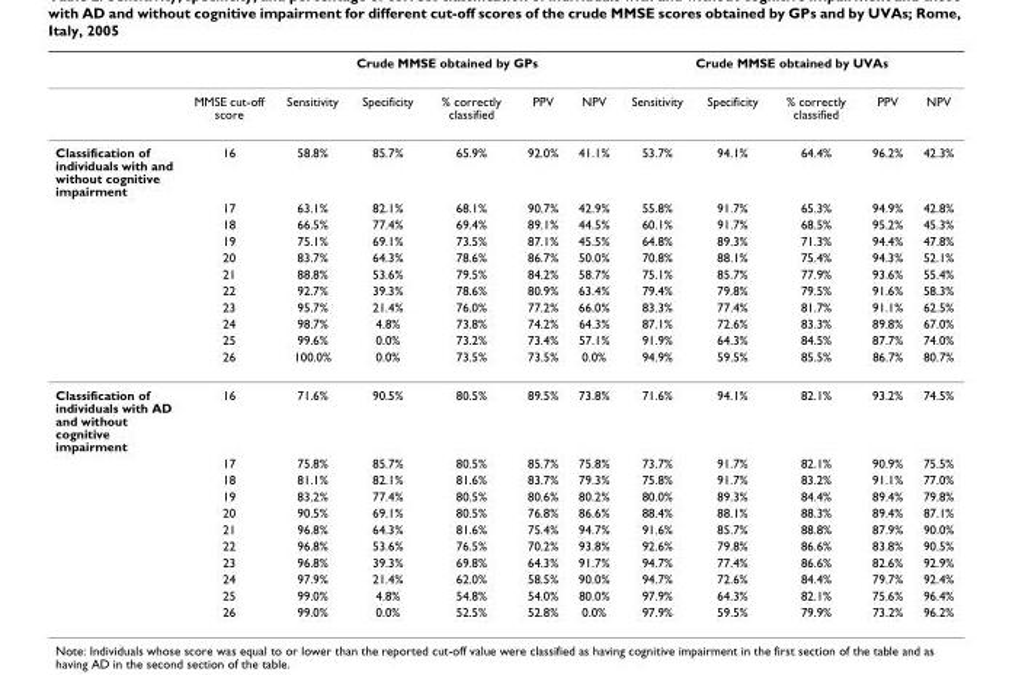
<table><thead><tr><td rowspan="2"></td><td rowspan="2">MMSE cut-off score</td><td colspan="5">Crude MMSE obtained by GPs</td><td colspan="5">Crude MMSE obtained by UVAs</td></tr><tr><td>Sensitivity</td><td>Specificity</td><td>% correctly classified</td><td>PPV</td><td>NPV</td><td>Sensitivity</td><td>Specificity</td><td>% correctly classified</td><td>PPV</td><td>NPV</td></tr></thead><tbody><tr><td rowspan="11">Classification of individuals with and without cognitive impairment</td><td>16</td><td>58.8%</td><td>85.7%</td><td>65.9%</td><td>92.0%</td><td>41.1%</td><td>53.7%</td><td>94.1%</td><td>64.4%</td><td>96.2%</td><td>42.3%</td></tr><tr><td>17</td><td>63.1%</td><td>82.1%</td><td>68.1%</td><td>90.7%</td><td>42.9%</td><td>55.8%</td><td>91.7%</td><td>65.3%</td><td>94.9%</td><td>42.8%</td></tr><tr><td>18</td><td>66.5%</td><td>77.4%</td><td>69.4%</td><td>89.1%</td><td>44.5%</td><td>60.1%</td><td>91.7%</td><td>68.5%</td><td>95.2%</td><td>45.3%</td></tr><tr><td>19</td><td>75.1%</td><td>69.1%</td><td>73.5%</td><td>87.1%</td><td>45.5%</td><td>64.8%</td><td>89.3%</td><td>71.3%</td><td>94.4%</td><td>47.8%</td></tr><tr><td>20</td><td>83.7%</td><td>64.3%</td><td>78.6%</td><td>86.7%</td><td>50.0%</td><td>70.8%</td><td>88.1%</td><td>75.4%</td><td>94.3%</td><td>52.1%</td></tr><tr><td>21</td><td>88.8%</td><td>53.6%</td><td>79.5%</td><td>84.2%</td><td>58.7%</td><td>75.1%</td><td>85.7%</td><td>77.9%</td><td>93.6%</td><td>55.4%</td></tr><tr><td>22</td><td>92.7%</td><td>39.3%</td><td>78.6%</td><td>80.9%</td><td>63.4%</td><td>79.4%</td><td>79.8%</td><td>79.5%</td><td>91.6%</td><td>58.3%</td></tr><tr><td>23</td><td>95.7%</td><td>21.4%</td><td>76.0%</td><td>77.2%</td><td>66.0%</td><td>83.3%</td><td>77.4%</td><td>81.7%</td><td>91.1%</td><td>62.5%</td></tr><tr><td>24</td><td>98.7%</td><td>4.8%</td><td>73.8%</td><td>74.2%</td><td>64.3%</td><td>87.1%</td><td>72.6%</td><td>83.3%</td><td>89.8%</td><td>67.0%</td></tr><tr><td>25</td><td>99.6%</td><td>0.0%</td><td>73.2%</td><td>73.4%</td><td>57.1%</td><td>91.9%</td><td>64.3%</td><td>84.5%</td><td>87.7%</td><td>74.0%</td></tr><tr><td>26</td><td>100.0%</td><td>0.0%</td><td>73.5%</td><td>73.5%</td><td>0.0%</td><td>94.9%</td><td>59.5%</td><td>85.5%</td><td>86.7%</td><td>80.7%</td></tr><tr><td rowspan="11">Classification of individuals with AD and without cognitive impairment</td><td>16</td><td>71.6%</td><td>90.5%</td><td>80.5%</td><td>89.5%</td><td>73.8%</td><td>71.6%</td><td>94.1%</td><td>82.1%</td><td>93.2%</td><td>74.5%</td></tr><tr><td>17</td><td>75.8%</td><td>85.7%</td><td>80.5%</td><td>85.7%</td><td>75.8%</td><td>73.7%</td><td>91.7%</td><td>82.1%</td><td>90.9%</td><td>75.5%</td></tr><tr><td>18</td><td>81.1%</td><td>82.1%</td><td>81.6%</td><td>83.7%</td><td>79.3%</td><td>75.8%</td><td>91.7%</td><td>83.2%</td><td>91.1%</td><td>77.0%</td></tr><tr><td>19</td><td>83.2%</td><td>77.4%</td><td>80.5%</td><td>80.6%</td><td>80.2%</td><td>80.0%</td><td>89.3%</td><td>84.4%</td><td>89.4%</td><td>79.8%</td></tr><tr><td>20</td><td>90.5%</td><td>69.1%</td><td>80.5%</td><td>76.8%</td><td>86.6%</td><td>88.4%</td><td>88.1%</td><td>88.3%</td><td>89.4%</td><td>87.1%</td></tr><tr><td>21</td><td>96.8%</td><td>64.3%</td><td>81.6%</td><td>75.4%</td><td>94.7%</td><td>91.6%</td><td>85.7%</td><td>88.8%</td><td>87.9%</td><td>90.0%</td></tr><tr><td>22</td><td>96.8%</td><td>53.6%</td><td>76.5%</td><td>70.2%</td><td>93.8%</td><td>92.6%</td><td>79.8%</td><td>86.6%</td><td>83.8%</td><td>90.5%</td></tr><tr><td>23</td><td>96.8%</td><td>39.3%</td><td>69.8%</td><td>64.3%</td><td>91.7%</td><td>94.7%</td><td>77.4%</td><td>86.6%</td><td>82.6%</td><td>92.9%</td></tr><tr><td>24</td><td>97.9%</td><td>21.4%</td><td>62.0%</td><td>58.5%</td><td>90.0%</td><td>94.7%</td><td>72.6%</td><td>84.4%</td><td>79.7%</td><td>92.4%</td></tr><tr><td>25</td><td>99.0%</td><td>4.8%</td><td>54.8%</td><td>54.0%</td><td>80.0%</td><td>97.9%</td><td>64.3%</td><td>82.1%</td><td>75.6%</td><td>96.4%</td></tr><tr><td>26</td><td>99.0%</td><td>0.0%</td><td>52.5%</td><td>52.8%</td><td>0.0%</td><td>97.9%</td><td>59.5%</td><td>79.9%</td><td>73.2%</td><td>96.2%</td></tr></tbody></table>